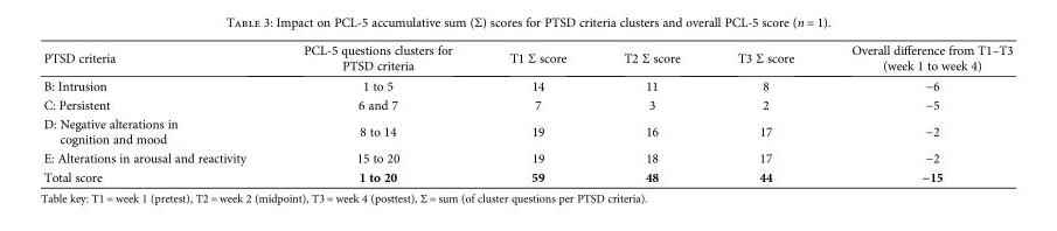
<table><thead><tr><td>PTSD criteria</td><td>PCL-5 questions clusters for PTSD criteria</td><td>T1 Σ score</td><td>T2 Σ score</td><td>T3 Σ score</td><td>Overall difference from T1–T3 (week 1 to week 4)</td></tr></thead><tbody><tr><td>B: Intrusion</td><td>1 to 5</td><td>14</td><td>11</td><td>8</td><td>−6</td></tr><tr><td>C: Persistent</td><td>6 and 7</td><td>7</td><td>3</td><td>2</td><td>−5</td></tr><tr><td>D: Negative alterations in cognition and mood</td><td>8 to 14</td><td>19</td><td>16</td><td>17</td><td>−2</td></tr><tr><td>E: Alterations in arousal and reactivity</td><td>15 to 20</td><td>19</td><td>18</td><td>17</td><td>−2</td></tr><tr><td>Total score</td><td>1 to 20</td><td>59</td><td>48</td><td>44</td><td>−15</td></tr></tbody></table>